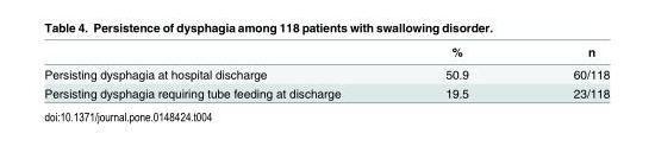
<table><thead><tr><td></td><td>%</td><td>n</td></tr></thead><tbody><tr><td>Persisting dysphagia at hospital discharge</td><td>50.9</td><td>60/118</td></tr><tr><td>Persisting dysphagia requiring tube feeding at discharge</td><td>19.5</td><td>23/118</td></tr></tbody></table>